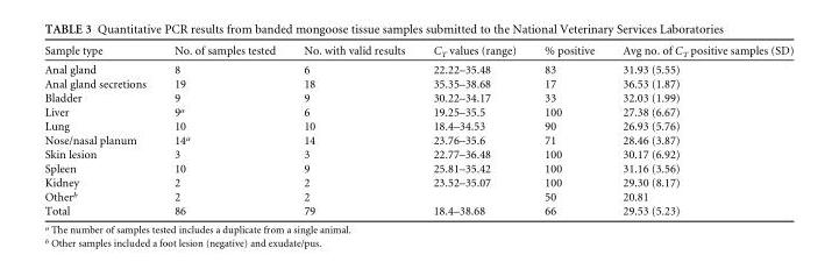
<table><thead><tr><td>Sample type</td><td>No. of samples tested</td><td>No. with valid results</td><td>C<sub>T</sub> values (range)</td><td>% positive</td><td>Avg no. of C<sub>T</sub> positive samples (SD)</td></tr></thead><tbody><tr><td>Anal gland</td><td>8</td><td>6</td><td>22.22–35.48</td><td>83</td><td>31.93 (5.55)</td></tr><tr><td>Anal gland secretions</td><td>19</td><td>18</td><td>35.35–38.68</td><td>17</td><td>36.53 (1.87)</td></tr><tr><td>Bladder</td><td>9</td><td>9</td><td>30.22–34.17</td><td>33</td><td>32.03 (1.99)</td></tr><tr><td>Liver</td><td>9<sup>a</sup></td><td>6</td><td>19.25–35.5</td><td>100</td><td>27.38 (6.67)</td></tr><tr><td>Lung</td><td>10</td><td>10</td><td>18.4–34.53</td><td>90</td><td>26.93 (5.76)</td></tr><tr><td>Nose/nasal planum</td><td>14<sup>a</sup></td><td>14</td><td>23.76–35.6</td><td>71</td><td>28.46 (3.87)</td></tr><tr><td>Skin lesion</td><td>3</td><td>3</td><td>22.77–36.48</td><td>100</td><td>30.17 (6.92)</td></tr><tr><td>Spleen</td><td>10</td><td>9</td><td>25.81–35.42</td><td>100</td><td>31.16 (3.56)</td></tr><tr><td>Kidney</td><td>2</td><td>2</td><td>23.52–35.07</td><td>100</td><td>29.30 (8.17)</td></tr><tr><td>Other<sup>b</sup></td><td>2</td><td>2</td><td></td><td>50</td><td>20.81</td></tr><tr><td>Total</td><td>86</td><td>79</td><td>18.4–38.68</td><td>66</td><td>29.53 (5.23)</td></tr></tbody></table>